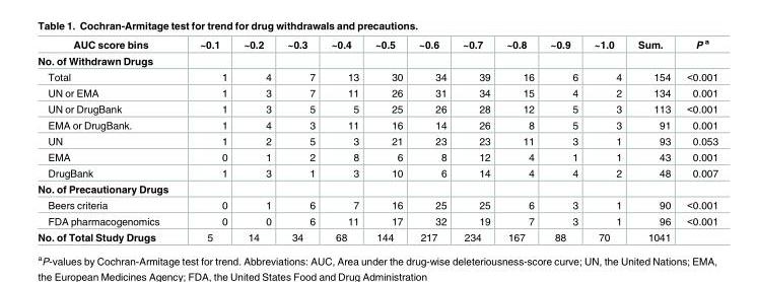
<table><thead><tr><td>AUC score bins</td><td>~0.1</td><td>~0.2</td><td>~0.3</td><td>~0.4</td><td>~0.5</td><td>~0.6</td><td>~0.7</td><td>~0.8</td><td>~0.9</td><td>~1.0</td><td>Sum.</td><td>P <sup>a</sup></td></tr></thead><tbody><tr><td colspan="13">No. of Withdrawn Drugs</td></tr><tr><td>Total</td><td>1</td><td>4</td><td>7</td><td>13</td><td>30</td><td>34</td><td>39</td><td>16</td><td>6</td><td>4</td><td>154</td><td>&lt;0.001</td></tr><tr><td>UN or EMA</td><td>1</td><td>3</td><td>7</td><td>11</td><td>26</td><td>31</td><td>34</td><td>15</td><td>4</td><td>2</td><td>134</td><td>0.001</td></tr><tr><td>UN or DrugBank</td><td>1</td><td>3</td><td>5</td><td>5</td><td>25</td><td>26</td><td>28</td><td>12</td><td>5</td><td>3</td><td>113</td><td>&lt;0.001</td></tr><tr><td>EMA or DrugBank.</td><td>1</td><td>4</td><td>3</td><td>11</td><td>16</td><td>14</td><td>26</td><td>8</td><td>5</td><td>3</td><td>91</td><td>0.001</td></tr><tr><td>UN</td><td>1</td><td>2</td><td>5</td><td>3</td><td>21</td><td>23</td><td>23</td><td>11</td><td>3</td><td>1</td><td>93</td><td>0.053</td></tr><tr><td>EMA</td><td>0</td><td>1</td><td>2</td><td>8</td><td>6</td><td>8</td><td>12</td><td>4</td><td>1</td><td>1</td><td>43</td><td>0.001</td></tr><tr><td>DrugBank</td><td>1</td><td>3</td><td>1</td><td>3</td><td>10</td><td>6</td><td>14</td><td>4</td><td>4</td><td>2</td><td>48</td><td>0.007</td></tr><tr><td colspan="13">No. of Precautionary Drugs</td></tr><tr><td>Beers criteria</td><td>0</td><td>1</td><td>6</td><td>7</td><td>16</td><td>25</td><td>25</td><td>6</td><td>3</td><td>1</td><td>90</td><td>&lt;0.001</td></tr><tr><td>FDA pharmacogenomics</td><td>0</td><td>0</td><td>6</td><td>11</td><td>17</td><td>32</td><td>19</td><td>7</td><td>3</td><td>1</td><td>96</td><td>&lt;0.001</td></tr><tr><td>No. of Total Study Drugs</td><td>5</td><td>14</td><td>34</td><td>68</td><td>144</td><td>217</td><td>234</td><td>167</td><td>88</td><td>70</td><td>1041</td><td></td></tr></tbody></table>